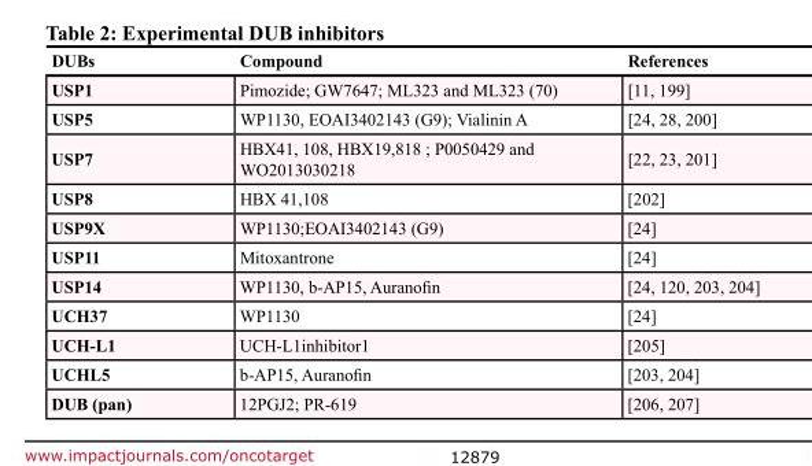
<table><thead><tr><td>DUBs</td><td>Compound</td><td>References</td></tr></thead><tbody><tr><td>USp1</td><td>Pimozide; GW7647; ML323 and ML323 (70)</td><td>[11, 199]</td></tr><tr><td>USp5</td><td>WP1130, EOAI3402143 (G9); Vialinin A</td><td>[24, 28, 200]</td></tr><tr><td>USp7</td><td>HBX41, 108, HBX19,818 ; P0050429 and WO2013030218</td><td>[22, 23, 201]</td></tr><tr><td>USp8</td><td>HBX 41,108</td><td>[202]</td></tr><tr><td>USp9X</td><td>WP1130;EOAI3402143 (G9)</td><td>[24]</td></tr><tr><td>USp11</td><td>Mitoxantrone</td><td>[24]</td></tr><tr><td>USp14</td><td>WP1130, b-AP15, Auranofin</td><td>[24, 120, 203, 204]</td></tr><tr><td>UCh37</td><td>WP1130</td><td>[24]</td></tr><tr><td>UCh-L1</td><td>UCH-L1inhibitor1</td><td>[205]</td></tr><tr><td>UChL5</td><td>b-AP15, Auranofin</td><td>[203, 204]</td></tr><tr><td>DUB (pan)</td><td>12PGJ2; PR-619</td><td>[206, 207]</td></tr></tbody></table>